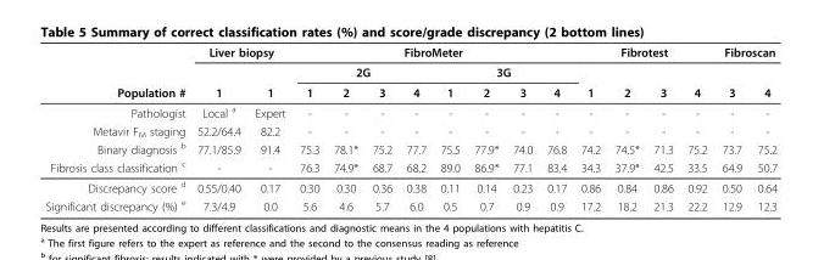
<table><thead><tr><td rowspan="3">Population #</td><td colspan="2">Liver biopsy</td><td colspan="8">FibroMeter</td><td colspan="4">Fibrotest</td><td colspan="2">Fibroscan</td></tr><tr><td rowspan="2">1</td><td rowspan="2">1</td><td colspan="4">2G</td><td colspan="4">3G</td><td rowspan="2">1</td><td rowspan="2">2</td><td rowspan="2">3</td><td rowspan="2">4</td><td rowspan="2">3</td><td rowspan="2">4</td></tr><tr><td>1</td><td>2</td><td>3</td><td>4</td><td>1</td><td>2</td><td>3</td><td>4</td></tr></thead><tbody><tr><td>Pathologist</td><td>Local <sup>a</sup></td><td>Expert</td><td>-</td><td>-</td><td>-</td><td>-</td><td>-</td><td>-</td><td>-</td><td>-</td><td>-</td><td>-</td><td>-</td><td>-</td><td>-</td><td>-</td></tr><tr><td>Metavir F<sub>M</sub> staging</td><td>52.2/64.4</td><td>82.2</td><td>-</td><td>-</td><td>-</td><td>-</td><td>-</td><td>-</td><td>-</td><td>-</td><td>-</td><td>-</td><td>-</td><td>-</td><td>-</td><td>-</td></tr><tr><td>Binary diagnosis <sup>b</sup></td><td>77.1/85.9</td><td>91.4</td><td>75.3</td><td>78.1*</td><td>75.2</td><td>77.7</td><td>75.5</td><td>77.9*</td><td>74.0</td><td>76.8</td><td>74.2</td><td>74.5*</td><td>71.3</td><td>75.2</td><td>73.7</td><td>75.2</td></tr><tr><td>Fibrosis class classification <sup>c</sup></td><td>-</td><td>-</td><td>76.3</td><td>74.9*</td><td>68.7</td><td>68.2</td><td>89.0</td><td>86.9*</td><td>77.1</td><td>83.4</td><td>34.3</td><td>37.9*</td><td>42.5</td><td>33.5</td><td>64.9</td><td>50.7</td></tr><tr><td>Discrepancy score <sup>d</sup></td><td>0.55/0.40</td><td>0.17</td><td>0.30</td><td>0.30</td><td>0.36</td><td>0.38</td><td>0.11</td><td>0.14</td><td>0.23</td><td>0.17</td><td>0.86</td><td>0.84</td><td>0.86</td><td>0.92</td><td>0.50</td><td>0.64</td></tr><tr><td>Significant discrepancy (%) <sup>e</sup></td><td>7.3/4.9</td><td>0.0</td><td>5.6</td><td>4.6</td><td>5.7</td><td>6.0</td><td>0.5</td><td>0.7</td><td>0.9</td><td>0.9</td><td>17.2</td><td>18.2</td><td>21.3</td><td>22.2</td><td>12.9</td><td>12.3</td></tr></tbody></table>